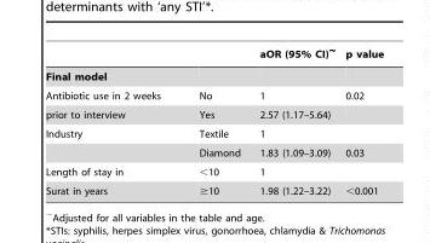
<table><thead><tr><td></td><td></td><td>aOR (95% CI)∼</td><td>p value</td></tr></thead><tbody><tr><td colspan="4">Final model</td></tr><tr><td>Antibiotic use in 2 weeks</td><td>No</td><td>1</td><td>0.02</td></tr><tr><td>prior to interview</td><td>Yes</td><td>2.57 (1.17–5.64)</td><td></td></tr><tr><td rowspan="2">Industry</td><td>Textile</td><td>1</td><td></td></tr><tr><td>Diamond</td><td>1.83 (1.09–3.09)</td><td>0.03</td></tr><tr><td>Length of stay in</td><td>&lt;10</td><td>1</td><td></td></tr><tr><td>Surat in years</td><td>≥10</td><td>1.98 (1.22–3.22)</td><td>&lt;0.001</td></tr></tbody></table>